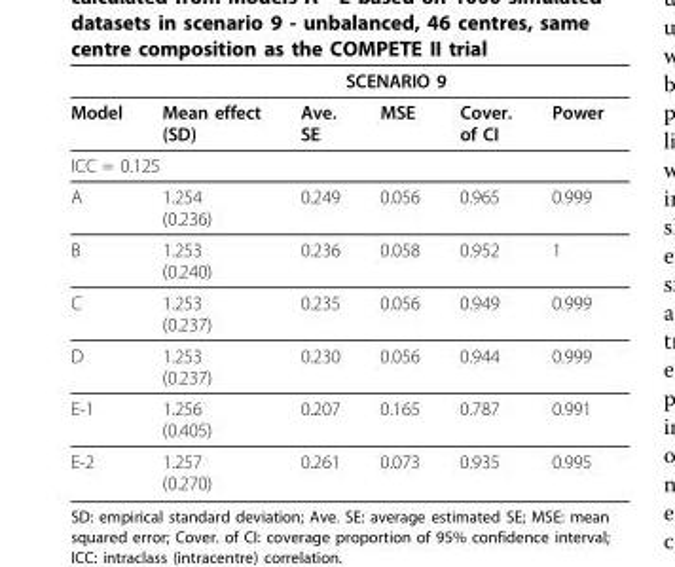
<table><thead><tr><td rowspan="2">Model</td><td colspan="5">SCENARIO 9</td></tr><tr><td>Mean effect (SD)</td><td>Ave. SE</td><td>MSE</td><td>Cover. of CI</td><td>Power</td></tr></thead><tbody><tr><td colspan="6">ICC = 0.125</td></tr><tr><td>A</td><td>1.254 (0.236)</td><td>0.249</td><td>0.056</td><td>0.965</td><td>0.999</td></tr><tr><td>B</td><td>1.253 (0.240)</td><td>0.236</td><td>0.058</td><td>0.952</td><td>1</td></tr><tr><td>C</td><td>1.253 (0.237)</td><td>0.235</td><td>0.056</td><td>0.949</td><td>0.999</td></tr><tr><td>D</td><td>1.253 (0.237)</td><td>0.230</td><td>0.056</td><td>0.944</td><td>0.999</td></tr><tr><td>E-1</td><td>1.256 (0.405)</td><td>0.207</td><td>0.165</td><td>0.787</td><td>0.991</td></tr><tr><td>E-2</td><td>1.257 (0.270)</td><td>0.261</td><td>0.073</td><td>0.935</td><td>0.995</td></tr></tbody></table>